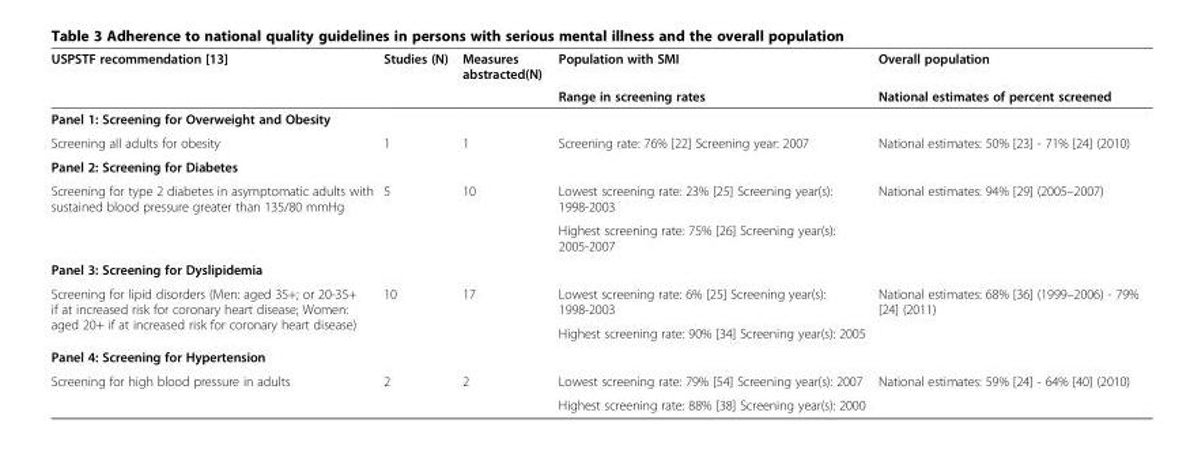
<table><thead><tr><td rowspan="2">USPSTF recommendation [13]</td><td rowspan="2">Studies (N)</td><td rowspan="2">Measures abstracted(N)</td><td rowspan="2">Population with SMI Range in screening rates</td><td rowspan="2">Overall population National estimates of percent screened</td></tr><tr></tr></thead><tbody><tr><td colspan="5">Panel 1: Screening for Overweight and Obesity</td></tr><tr><td>Screening all adults for obesity</td><td>1</td><td>1</td><td>Screening rate: 76% [22] Screening year: 2007</td><td>National estimates: 50% [23] - 71% [24] (2010)</td></tr><tr><td colspan="5">Panel 2: Screening for Diabetes</td></tr><tr><td rowspan="2">Screening for type 2 diabetes in asymptomatic adults with sustained blood pressure greater than 135/80 mmHg</td><td rowspan="2">5</td><td rowspan="2">10</td><td>Lowest screening rate: 23% [25] Screening year(s): 1998-2003</td><td rowspan="2">National estimates: 94% [29] (2005–2007)</td></tr><tr><td>Highest screening rate: 75% [26] Screening year(s): 2005-2007</td></tr><tr><td colspan="5">Panel 3: Screening for Dyslipidemia</td></tr><tr><td rowspan="2">Screening for lipid disorders (Men: aged 35+; or 20-35+ if at increased risk for coronary heart disease; Women: aged 20+ if at increased risk for coronary heart disease)</td><td rowspan="2">10</td><td rowspan="2">17</td><td>Lowest screening rate: 6% [25] Screening year(s): 1998-2003</td><td rowspan="2">National estimates: 68% [36] (1999–2006) - 79% [24] (2011)</td></tr><tr><td>Highest screening rate: 90% [34] Screening year(s): 2005</td></tr><tr><td colspan="5">Panel 4: Screening for Hypertension</td></tr><tr><td rowspan="2">Screening for high blood pressure in adults</td><td rowspan="2">2</td><td rowspan="2">2</td><td>Lowest screening rate: 79% [54] Screening year(s): 2007</td><td rowspan="2">National estimates: 59% [24] - 64% [40] (2010)</td></tr><tr><td>Highest screening rate: 88% [38] Screening year(s): 2000</td></tr></tbody></table>